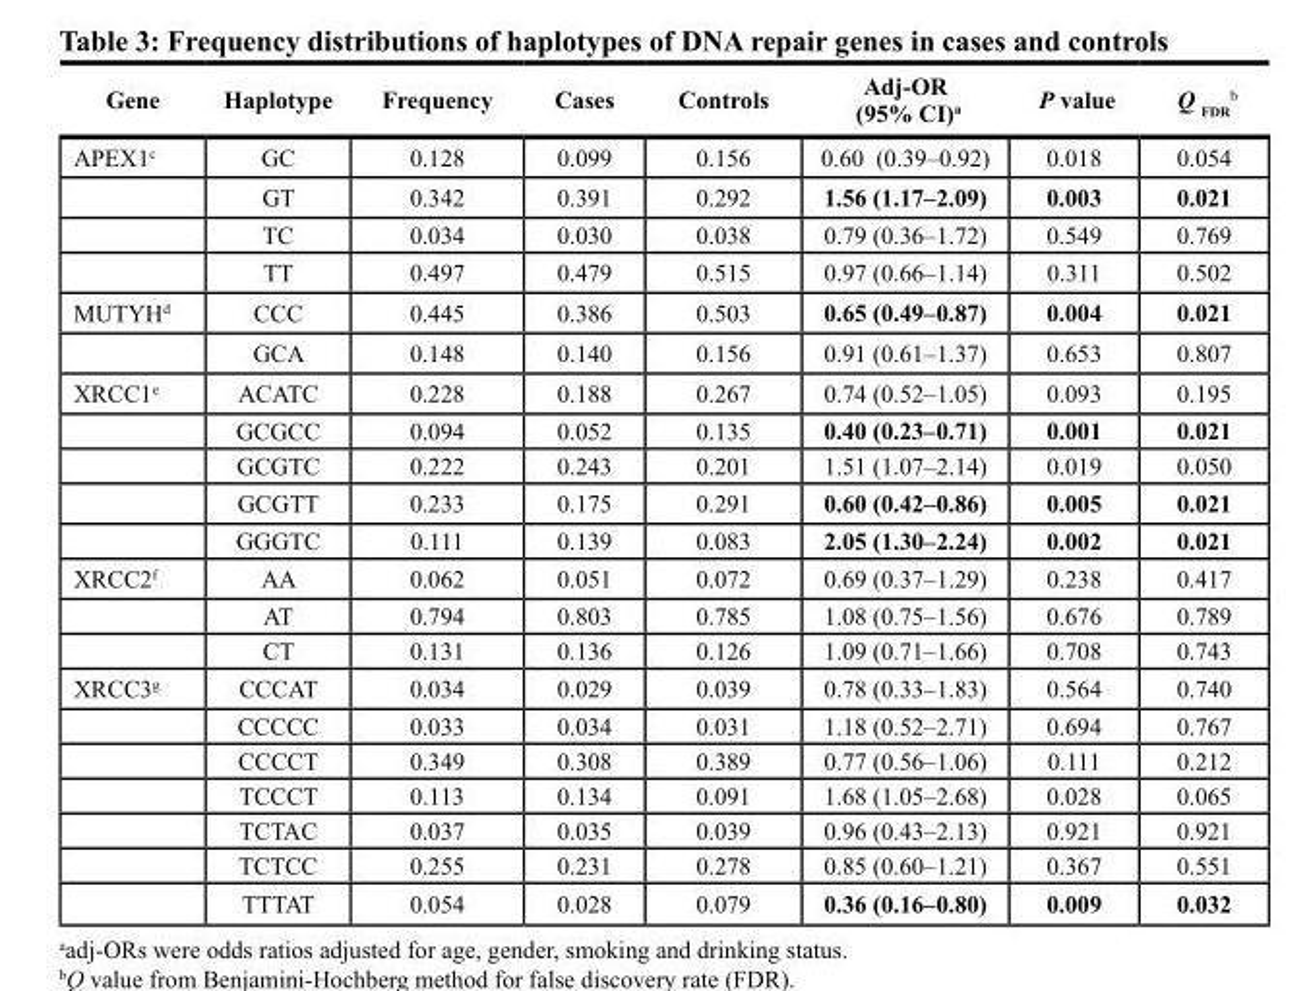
<table><thead><tr><td>Gene</td><td>Haplotype</td><td>Frequency</td><td>Cases</td><td>Controls</td><td>Adj-OR (95% CI)<sup>a</sup></td><td>P value</td><td>Q <sub>FDR</sub> <sup>b</sup></td></tr></thead><tbody><tr><td rowspan="4">APEX1<sup>c</sup></td><td>GC</td><td>0.128</td><td>0.099</td><td>0.156</td><td>0.60 (0.39–0.92)</td><td>0.018</td><td>0.054</td></tr><tr><td>GT</td><td>0.342</td><td>0.391</td><td>0.292</td><td>1.56 (1.17–2.09)</td><td>0.003</td><td>0.021</td></tr><tr><td>TC</td><td>0.034</td><td>0.030</td><td>0.038</td><td>0.79 (0.36–1.72)</td><td>0.549</td><td>0.769</td></tr><tr><td>TT</td><td>0.497</td><td>0.479</td><td>0.515</td><td>0.97 (0.66–1.14)</td><td>0.311</td><td>0.502</td></tr><tr><td rowspan="2">MUTYH<sup>d</sup></td><td>CCC</td><td>0.445</td><td>0.386</td><td>0.503</td><td>0.65 (0.49–0.87)</td><td>0.004</td><td>0.021</td></tr><tr><td>GCA</td><td>0.148</td><td>0.140</td><td>0.156</td><td>0.91 (0.61–1.37)</td><td>0.653</td><td>0.807</td></tr><tr><td rowspan="5">XRCC1<sup>e</sup></td><td>ACATC</td><td>0.228</td><td>0.188</td><td>0.267</td><td>0.74 (0.52–1.05)</td><td>0.093</td><td>0.195</td></tr><tr><td>GCGCC</td><td>0.094</td><td>0.052</td><td>0.135</td><td>0.40 (0.23–0.71)</td><td>0.001</td><td>0.021</td></tr><tr><td>GCGTC</td><td>0.222</td><td>0.243</td><td>0.201</td><td>1.51 (1.07–2.14)</td><td>0.019</td><td>0.050</td></tr><tr><td>GCGTT</td><td>0.233</td><td>0.175</td><td>0.291</td><td>0.60 (0.42–0.86)</td><td>0.005</td><td>0.021</td></tr><tr><td>GGGTC</td><td>0.111</td><td>0.139</td><td>0.083</td><td>2.05 (1.30–2.24)</td><td>0.002</td><td>0.021</td></tr><tr><td rowspan="3">XRCC2<sup>f</sup></td><td>AA</td><td>0.062</td><td>0.051</td><td>0.072</td><td>0.69 (0.37–1.29)</td><td>0.238</td><td>0.417</td></tr><tr><td>AT</td><td>0.794</td><td>0.803</td><td>0.785</td><td>1.08 (0.75–1.56)</td><td>0.676</td><td>0.789</td></tr><tr><td>CT</td><td>0.131</td><td>0.136</td><td>0.126</td><td>1.09 (0.71–1.66)</td><td>0.708</td><td>0.743</td></tr><tr><td rowspan="7">XRCC3<sup>g</sup></td><td>CCCAT</td><td>0.034</td><td>0.029</td><td>0.039</td><td>0.78 (0.33–1.83)</td><td>0.564</td><td>0.740</td></tr><tr><td>CCCCC</td><td>0.033</td><td>0.034</td><td>0.031</td><td>1.18 (0.52–2.71)</td><td>0.694</td><td>0.767</td></tr><tr><td>CCCCT</td><td>0.349</td><td>0.308</td><td>0.389</td><td>0.77 (0.56–1.06)</td><td>0.111</td><td>0.212</td></tr><tr><td>TCCCT</td><td>0.113</td><td>0.134</td><td>0.091</td><td>1.68 (1.05–2.68)</td><td>0.028</td><td>0.065</td></tr><tr><td>TCTAC</td><td>0.037</td><td>0.035</td><td>0.039</td><td>0.96 (0.43–2.13)</td><td>0.921</td><td>0.921</td></tr><tr><td>TCTCC</td><td>0.255</td><td>0.231</td><td>0.278</td><td>0.85 (0.60–1.21)</td><td>0.367</td><td>0.551</td></tr><tr><td>TTTAT</td><td>0.054</td><td>0.028</td><td>0.079</td><td>0.36 (0.16–0.80)</td><td>0.009</td><td>0.032</td></tr></tbody></table>